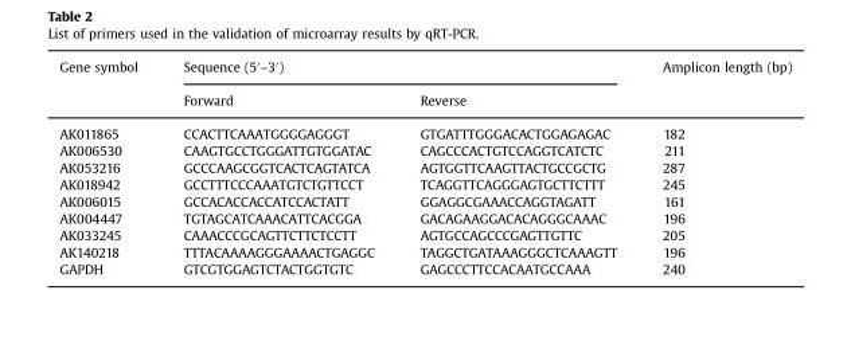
<table><thead><tr><td rowspan="2">Gene symbol</td><td colspan="2">Sequence (5′–3′)</td><td rowspan="2">Amplicon length (bp)</td></tr><tr><td>Forward</td><td>Reverse</td></tr></thead><tbody><tr><td>AK011865</td><td>CCACTTCAAATGGGGAGGGT</td><td>GTGATTTGGGACACTGGAGAGAC</td><td>182</td></tr><tr><td>AK006530</td><td>CAAGTGCCTGGGATTGTGGATAC</td><td>CAGCCCACTGTCCAGGTCATCTC</td><td>211</td></tr><tr><td>AK053216</td><td>GCCCAAGCGGTCACTCAGTATCA</td><td>AGTGGTTCAAGTTACTGCCGCTG</td><td>287</td></tr><tr><td>AK018942</td><td>GCCTTTCCCAAATGTCTGTTCCT</td><td>TCAGGTTCAGGGAGTGCTTCTTT</td><td>245</td></tr><tr><td>AK006015</td><td>GCCACACCACCATCCACTATT</td><td>GGAGGCGAAACCAGGTAGATT</td><td>161</td></tr><tr><td>AK004447</td><td>TGTAGCATCAAACATTCACGGA</td><td>GACAGAAGGACACAGGGCAAAC</td><td>196</td></tr><tr><td>AK033245</td><td>CAAACCCGCAGTTCTTCTCCTT</td><td>AGTGCCAGCCCGAGTTGTTC</td><td>205</td></tr><tr><td>AK140218</td><td>TTTACAAAAGGGAAAACTGAGGC</td><td>TAGGCTGATAAAGGGCTCAAAGTT</td><td>196</td></tr><tr><td>GAPDH</td><td>GTCGTGGAGTCTACTGGTGTC</td><td>GAGCCCTTCCACAATGCCAAA</td><td>240</td></tr></tbody></table>